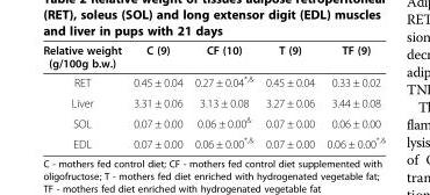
<table><thead><tr><td>Relative weight (g/100g b.w.)</td><td>C (9)</td><td>CF (10)</td><td>T (9)</td><td>TF (9)</td></tr></thead><tbody><tr><td>RET</td><td>0.45 ± 0.04</td><td>0.27 ± 0.04<sup>*,&amp;</sup></td><td>0.45 ± 0.04</td><td>0.33 ± 0.02</td></tr><tr><td>Liver</td><td>3.31 ± 0.06</td><td>3.13 ± 0.08</td><td>3.27 ± 0.06</td><td>3.44 ± 0.08</td></tr><tr><td>SOL</td><td>0.07 ± 0.00</td><td>0.06 ± 0.00<sup>&amp;</sup></td><td>0.07 ± 0.00</td><td>0.06 ± 0.00</td></tr><tr><td>EDL</td><td>0.07 ± 0.00</td><td>0.06 ± 0.00<sup>*,&amp;</sup></td><td>0.07 ± 0.00</td><td>0.06 ± 0.00<sup>*,&amp;</sup></td></tr></tbody></table>